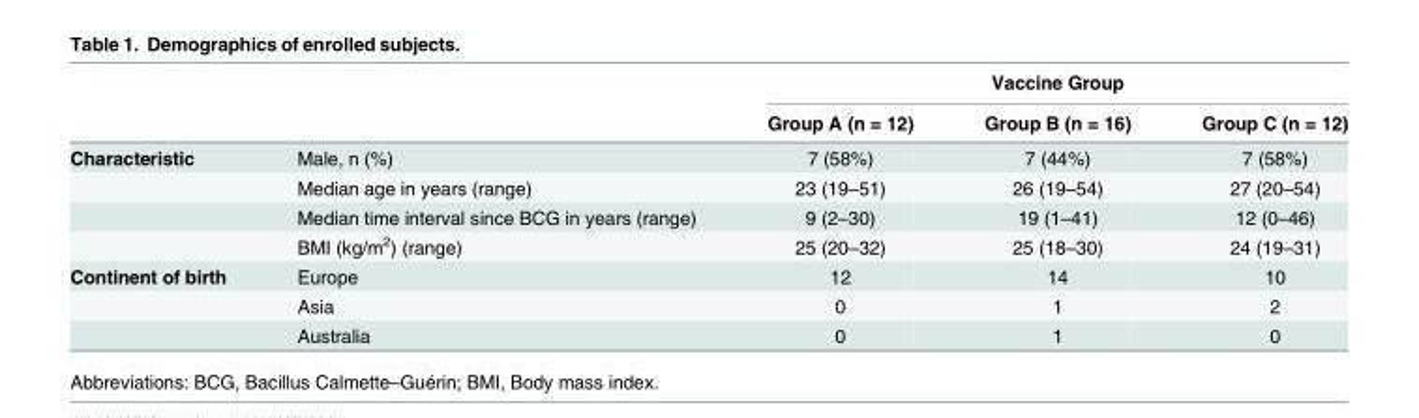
<table><thead><tr><td rowspan="2"></td><td rowspan="2"></td><td colspan="3">Vaccine Group</td></tr><tr><td>Group A (n = 12)</td><td>Group B (n = 16)</td><td>Group C (n = 12)</td></tr></thead><tbody><tr><td rowspan="4">Characteristic</td><td>Male, n (%)</td><td>7 (58%)</td><td>7 (44%)</td><td>7 (58%)</td></tr><tr><td>Median age in years (range)</td><td>23 (19–51)</td><td>26 (19–54)</td><td>27 (20–54)</td></tr><tr><td>Median time interval since BCG in years (range)</td><td>9 (2–30)</td><td>19 (1–41)</td><td>12 (0–46)</td></tr><tr><td>BMI (kg/m<sup>2</sup>) (range)</td><td>25 (20–32)</td><td>25 (18–30)</td><td>24 (19–31)</td></tr><tr><td rowspan="3">Continent of birth</td><td>Europe</td><td>12</td><td>14</td><td>10</td></tr><tr><td>Asia</td><td>0</td><td>1</td><td>2</td></tr><tr><td>Australia</td><td>0</td><td>1</td><td>0</td></tr></tbody></table>